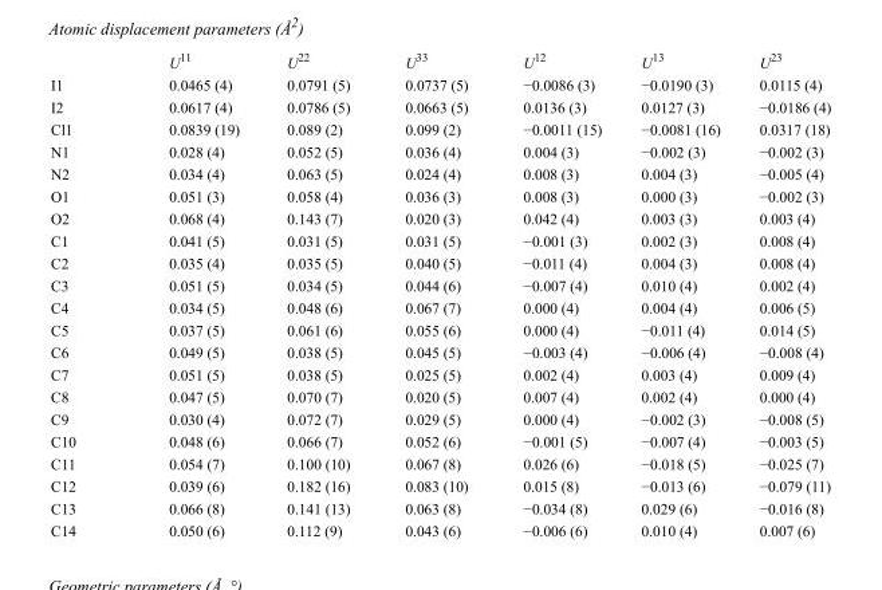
<table><thead><tr><td></td><td>U<sup>11</sup></td><td>U<sup>22</sup></td><td>U<sup>33</sup></td><td>U<sup>12</sup></td><td>U<sup>13</sup></td><td>U<sup>23</sup></td></tr></thead><tbody><tr><td>I1</td><td>0.0465 (4)</td><td>0.0791 (5)</td><td>0.0737 (5)</td><td>−0.0086 (3)</td><td>−0.0190 (3)</td><td>0.0115 (4)</td></tr><tr><td>I2</td><td>0.0617 (4)</td><td>0.0786 (5)</td><td>0.0663 (5)</td><td>0.0136 (3)</td><td>0.0127 (3)</td><td>−0.0186 (4)</td></tr><tr><td>Cl1</td><td>0.0839 (19)</td><td>0.089 (2)</td><td>0.099 (2)</td><td>−0.0011 (15)</td><td>−0.0081 (16)</td><td>0.0317 (18)</td></tr><tr><td>N1</td><td>0.028 (4)</td><td>0.052 (5)</td><td>0.036 (4)</td><td>0.004 (3)</td><td>−0.002 (3)</td><td>−0.002 (3)</td></tr><tr><td>N2</td><td>0.034 (4)</td><td>0.063 (5)</td><td>0.024 (4)</td><td>0.008 (3)</td><td>0.004 (3)</td><td>−0.005 (4)</td></tr><tr><td>O1</td><td>0.051 (3)</td><td>0.058 (4)</td><td>0.036 (3)</td><td>0.008 (3)</td><td>0.000 (3)</td><td>−0.002 (3)</td></tr><tr><td>O2</td><td>0.068 (4)</td><td>0.143 (7)</td><td>0.020 (3)</td><td>0.042 (4)</td><td>0.003 (3)</td><td>0.003 (4)</td></tr><tr><td>C1</td><td>0.041 (5)</td><td>0.031 (5)</td><td>0.031 (5)</td><td>−0.001 (3)</td><td>0.002 (3)</td><td>0.008 (4)</td></tr><tr><td>C2</td><td>0.035 (4)</td><td>0.035 (5)</td><td>0.040 (5)</td><td>−0.011 (4)</td><td>0.004 (3)</td><td>0.008 (4)</td></tr><tr><td>C3</td><td>0.051 (5)</td><td>0.034 (5)</td><td>0.044 (6)</td><td>−0.007 (4)</td><td>0.010 (4)</td><td>0.002 (4)</td></tr><tr><td>C4</td><td>0.034 (5)</td><td>0.048 (6)</td><td>0.067 (7)</td><td>0.000 (4)</td><td>0.004 (4)</td><td>0.006 (5)</td></tr><tr><td>C5</td><td>0.037 (5)</td><td>0.061 (6)</td><td>0.055 (6)</td><td>0.000 (4)</td><td>−0.011 (4)</td><td>0.014 (5)</td></tr><tr><td>C6</td><td>0.049 (5)</td><td>0.038 (5)</td><td>0.045 (5)</td><td>−0.003 (4)</td><td>−0.006 (4)</td><td>−0.008 (4)</td></tr><tr><td>C7</td><td>0.051 (5)</td><td>0.038 (5)</td><td>0.025 (5)</td><td>0.002 (4)</td><td>0.003 (4)</td><td>0.009 (4)</td></tr><tr><td>C8</td><td>0.047 (5)</td><td>0.070 (7)</td><td>0.020 (5)</td><td>0.007 (4)</td><td>0.002 (4)</td><td>0.000 (4)</td></tr><tr><td>C9</td><td>0.030 (4)</td><td>0.072 (7)</td><td>0.029 (5)</td><td>0.000 (4)</td><td>−0.002 (3)</td><td>−0.008 (5)</td></tr><tr><td>C10</td><td>0.048 (6)</td><td>0.066 (7)</td><td>0.052 (6)</td><td>−0.001 (5)</td><td>−0.007 (4)</td><td>−0.003 (5)</td></tr><tr><td>C11</td><td>0.054 (7)</td><td>0.100 (10)</td><td>0.067 (8)</td><td>0.026 (6)</td><td>−0.018 (5)</td><td>−0.025 (7)</td></tr><tr><td>C12</td><td>0.039 (6)</td><td>0.182 (16)</td><td>0.083 (10)</td><td>0.015 (8)</td><td>−0.013 (6)</td><td>−0.079 (11)</td></tr><tr><td>C13</td><td>0.066 (8)</td><td>0.141 (13)</td><td>0.063 (8)</td><td>−0.034 (8)</td><td>0.029 (6)</td><td>−0.016 (8)</td></tr><tr><td>C14</td><td>0.050 (6)</td><td>0.112 (9)</td><td>0.043 (6)</td><td>−0.006 (6)</td><td>0.010 (4)</td><td>0.007 (6)</td></tr></tbody></table>